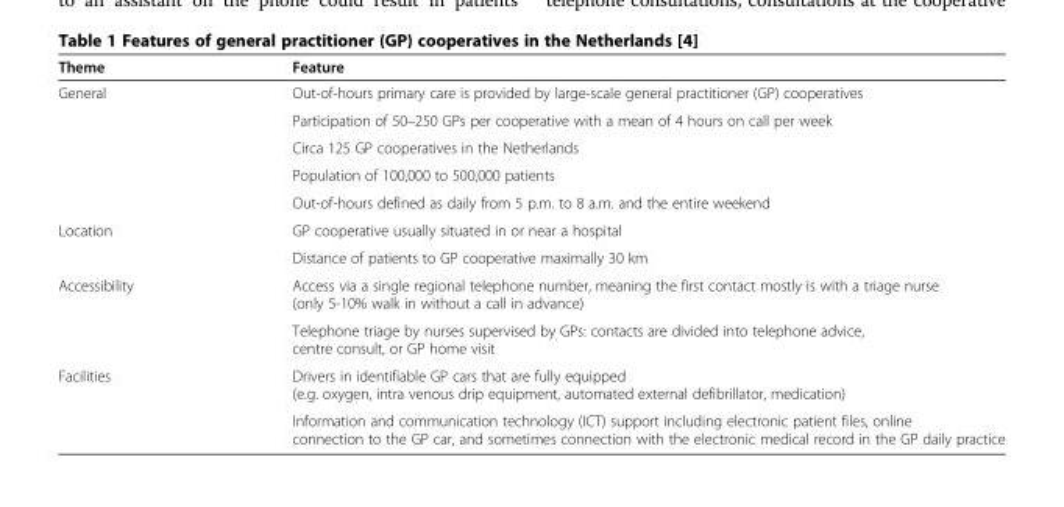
<table><thead><tr><td>Theme</td><td>Feature</td></tr></thead><tbody><tr><td rowspan="5">General</td><td>Out-of-hours primary care is provided by large-scale general practitioner (GP) cooperatives</td></tr><tr><td>Participation of 50–250 GPs per cooperative with a mean of 4 hours on call per week</td></tr><tr><td>Circa 125 GP cooperatives in the Netherlands</td></tr><tr><td>Population of 100,000 to 500,000 patients</td></tr><tr><td>Out-of-hours defined as daily from 5 p.m. to 8 a.m. and the entire weekend</td></tr><tr><td rowspan="2">Location</td><td>GP cooperative usually situated in or near a hospital</td></tr><tr><td>Distance of patients to GP cooperative maximally 30 km</td></tr><tr><td rowspan="2">Accessibility</td><td>Access via a single regional telephone number, meaning the first contact mostly is with a triage nurse (only 5-10% walk in without a call in advance)</td></tr><tr><td>Telephone triage by nurses supervised by GPs: contacts are divided into telephone advice, centre consult, or GP home visit</td></tr><tr><td rowspan="2">Facilities</td><td>Drivers in identifiable GP cars that are fully equipped (e.g. oxygen, intra venous drip equipment, automated external defibrillator, medication)</td></tr><tr><td>Information and communication technology (ICT) support including electronic patient files, online connection to the GP car, and sometimes connection with the electronic medical record in the GP daily practice</td></tr></tbody></table>